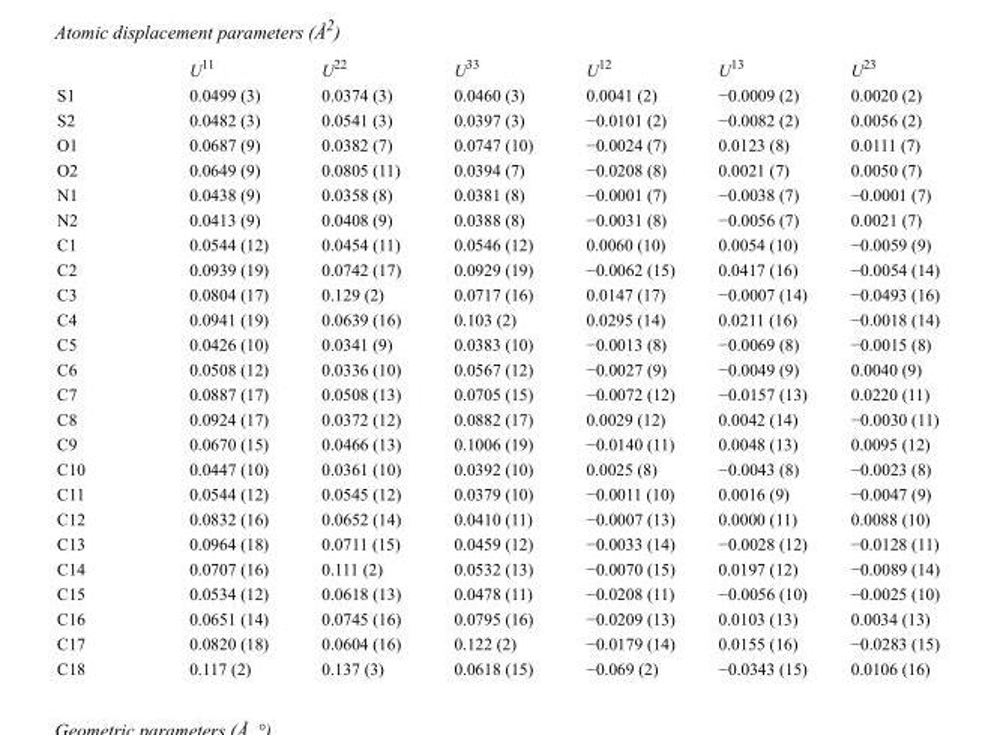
<table><thead><tr><td></td><td>U<sup>11</sup></td><td>U<sup>22</sup></td><td>U<sup>33</sup></td><td>U<sup>12</sup></td><td>U<sup>13</sup></td><td>U<sup>23</sup></td></tr></thead><tbody><tr><td>S1</td><td>0.0499 (3)</td><td>0.0374 (3)</td><td>0.0460 (3)</td><td>0.0041 (2)</td><td>−0.0009 (2)</td><td>0.0020 (2)</td></tr><tr><td>S2</td><td>0.0482 (3)</td><td>0.0541 (3)</td><td>0.0397 (3)</td><td>−0.0101 (2)</td><td>−0.0082 (2)</td><td>0.0056 (2)</td></tr><tr><td>O1</td><td>0.0687 (9)</td><td>0.0382 (7)</td><td>0.0747 (10)</td><td>−0.0024 (7)</td><td>0.0123 (8)</td><td>0.0111 (7)</td></tr><tr><td>O2</td><td>0.0649 (9)</td><td>0.0805 (11)</td><td>0.0394 (7)</td><td>−0.0208 (8)</td><td>0.0021 (7)</td><td>0.0050 (7)</td></tr><tr><td>N1</td><td>0.0438 (9)</td><td>0.0358 (8)</td><td>0.0381 (8)</td><td>−0.0001 (7)</td><td>−0.0038 (7)</td><td>−0.0001 (7)</td></tr><tr><td>N2</td><td>0.0413 (9)</td><td>0.0408 (9)</td><td>0.0388 (8)</td><td>−0.0031 (8)</td><td>−0.0056 (7)</td><td>0.0021 (7)</td></tr><tr><td>C1</td><td>0.0544 (12)</td><td>0.0454 (11)</td><td>0.0546 (12)</td><td>0.0060 (10)</td><td>0.0054 (10)</td><td>−0.0059 (9)</td></tr><tr><td>C2</td><td>0.0939 (19)</td><td>0.0742 (17)</td><td>0.0929 (19)</td><td>−0.0062 (15)</td><td>0.0417 (16)</td><td>−0.0054 (14)</td></tr><tr><td>C3</td><td>0.0804 (17)</td><td>0.129 (2)</td><td>0.0717 (16)</td><td>0.0147 (17)</td><td>−0.0007 (14)</td><td>−0.0493 (16)</td></tr><tr><td>C4</td><td>0.0941 (19)</td><td>0.0639 (16)</td><td>0.103 (2)</td><td>0.0295 (14)</td><td>0.0211 (16)</td><td>−0.0018 (14)</td></tr><tr><td>C5</td><td>0.0426 (10)</td><td>0.0341 (9)</td><td>0.0383 (10)</td><td>−0.0013 (8)</td><td>−0.0069 (8)</td><td>−0.0015 (8)</td></tr><tr><td>C6</td><td>0.0508 (12)</td><td>0.0336 (10)</td><td>0.0567 (12)</td><td>−0.0027 (9)</td><td>−0.0049 (9)</td><td>0.0040 (9)</td></tr><tr><td>C7</td><td>0.0887 (17)</td><td>0.0508 (13)</td><td>0.0705 (15)</td><td>−0.0072 (12)</td><td>−0.0157 (13)</td><td>0.0220 (11)</td></tr><tr><td>C8</td><td>0.0924 (17)</td><td>0.0372 (12)</td><td>0.0882 (17)</td><td>0.0029 (12)</td><td>0.0042 (14)</td><td>−0.0030 (11)</td></tr><tr><td>C9</td><td>0.0670 (15)</td><td>0.0466 (13)</td><td>0.1006 (19)</td><td>−0.0140 (11)</td><td>0.0048 (13)</td><td>0.0095 (12)</td></tr><tr><td>C10</td><td>0.0447 (10)</td><td>0.0361 (10)</td><td>0.0392 (10)</td><td>0.0025 (8)</td><td>−0.0043 (8)</td><td>−0.0023 (8)</td></tr><tr><td>C11</td><td>0.0544 (12)</td><td>0.0545 (12)</td><td>0.0379 (10)</td><td>−0.0011 (10)</td><td>0.0016 (9)</td><td>−0.0047 (9)</td></tr><tr><td>C12</td><td>0.0832 (16)</td><td>0.0652 (14)</td><td>0.0410 (11)</td><td>−0.0007 (13)</td><td>0.0000 (11)</td><td>0.0088 (10)</td></tr><tr><td>C13</td><td>0.0964 (18)</td><td>0.0711 (15)</td><td>0.0459 (12)</td><td>−0.0033 (14)</td><td>−0.0028 (12)</td><td>−0.0128 (11)</td></tr><tr><td>C14</td><td>0.0707 (16)</td><td>0.111 (2)</td><td>0.0532 (13)</td><td>−0.0070 (15)</td><td>0.0197 (12)</td><td>−0.0089 (14)</td></tr><tr><td>C15</td><td>0.0534 (12)</td><td>0.0618 (13)</td><td>0.0478 (11)</td><td>−0.0208 (11)</td><td>−0.0056 (10)</td><td>−0.0025 (10)</td></tr><tr><td>C16</td><td>0.0651 (14)</td><td>0.0745 (16)</td><td>0.0795 (16)</td><td>−0.0209 (13)</td><td>0.0103 (13)</td><td>0.0034 (13)</td></tr><tr><td>C17</td><td>0.0820 (18)</td><td>0.0604 (16)</td><td>0.122 (2)</td><td>−0.0179 (14)</td><td>0.0155 (16)</td><td>−0.0283 (15)</td></tr><tr><td>C18</td><td>0.117 (2)</td><td>0.137 (3)</td><td>0.0618 (15)</td><td>−0.069 (2)</td><td>−0.0343 (15)</td><td>0.0106 (16)</td></tr></tbody></table>